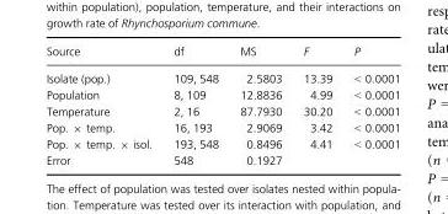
<table><thead><tr><td>Source</td><td>df</td><td>MS</td><td>F</td><td>P</td></tr></thead><tbody><tr><td>Isolate (pop.)</td><td>109, 548</td><td>2.5803</td><td>13.39</td><td>&lt; 0.0001</td></tr><tr><td>Population</td><td>8, 109</td><td>12.8836</td><td>4.99</td><td>&lt; 0.0001</td></tr><tr><td>Temperature</td><td>2, 16</td><td>87.7930</td><td>30.20</td><td>&lt; 0.0001</td></tr><tr><td>Pop. × temp.</td><td>16, 193</td><td>2.9069</td><td>3.42</td><td>&lt; 0.0001</td></tr><tr><td>Pop. × temp. × isol.</td><td>193, 548</td><td>0.8496</td><td>4.41</td><td>&lt; 0.0001</td></tr><tr><td>Error</td><td>548</td><td>0.1927</td><td></td><td></td></tr></tbody></table>